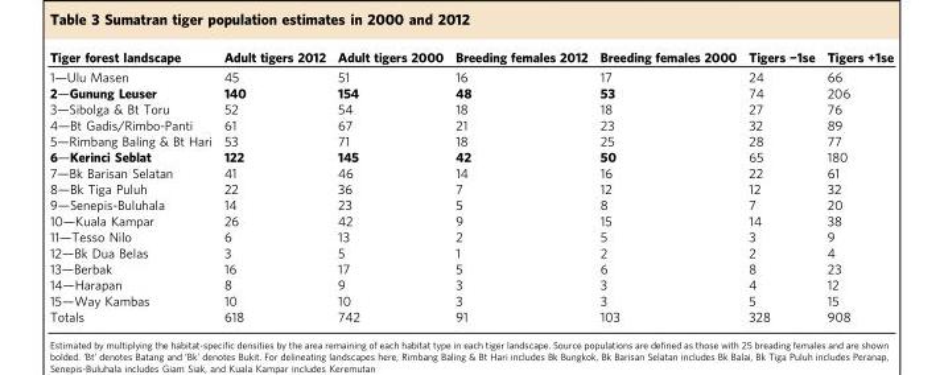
<table><thead><tr><td>Tiger forest landscape</td><td>Adult tigers 2012</td><td>Adult tigers 2000</td><td>Breeding females 2012</td><td>Breeding females 2000</td><td>Tigers −1se</td><td>Tigers +1se</td></tr></thead><tbody><tr><td>1—Ulu Masen</td><td>45</td><td>51</td><td>16</td><td>17</td><td>24</td><td>66</td></tr><tr><td>2—Gunung Leuser</td><td>140</td><td>154</td><td>48</td><td>53</td><td>74</td><td>206</td></tr><tr><td>3—Sibolga &amp; Bt Toru</td><td>52</td><td>54</td><td>18</td><td>18</td><td>27</td><td>76</td></tr><tr><td>4—Bt Gadis/Rimbo-Panti</td><td>61</td><td>67</td><td>21</td><td>23</td><td>32</td><td>89</td></tr><tr><td>5—Rimbang Baling &amp; Bt Hari</td><td>53</td><td>71</td><td>18</td><td>25</td><td>28</td><td>77</td></tr><tr><td>6—Kerinci Seblat</td><td>122</td><td>145</td><td>42</td><td>50</td><td>65</td><td>180</td></tr><tr><td>7—Bk Barisan Selatan</td><td>41</td><td>46</td><td>14</td><td>16</td><td>22</td><td>61</td></tr><tr><td>8—Bk Tiga Puluh</td><td>22</td><td>36</td><td>7</td><td>12</td><td>12</td><td>32</td></tr><tr><td>9—Senepis-Buluhala</td><td>14</td><td>23</td><td>5</td><td>8</td><td>7</td><td>20</td></tr><tr><td>10—Kuala Kampar</td><td>26</td><td>42</td><td>9</td><td>15</td><td>14</td><td>38</td></tr><tr><td>11—Tesso Nilo</td><td>6</td><td>13</td><td>2</td><td>5</td><td>3</td><td>9</td></tr><tr><td>12—Bk Dua Belas</td><td>3</td><td>5</td><td>1</td><td>2</td><td>2</td><td>4</td></tr><tr><td>13—Berbak</td><td>16</td><td>17</td><td>5</td><td>6</td><td>8</td><td>23</td></tr><tr><td>14—Harapan</td><td>8</td><td>9</td><td>3</td><td>3</td><td>4</td><td>12</td></tr><tr><td>15—Way Kambas</td><td>10</td><td>10</td><td>3</td><td>3</td><td>5</td><td>15</td></tr><tr><td>Totals</td><td>618</td><td>742</td><td>91</td><td>103</td><td>328</td><td>908</td></tr></tbody></table>